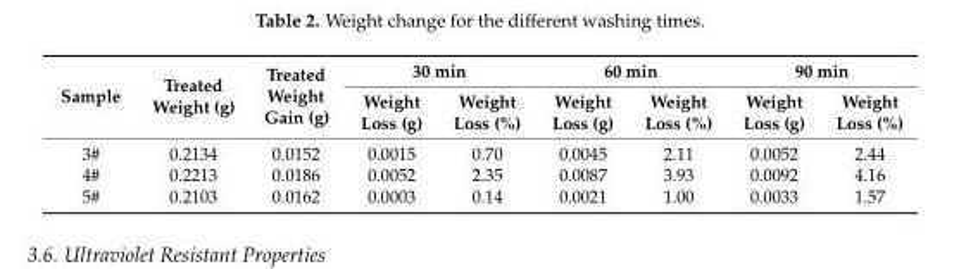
<table><thead><tr><td rowspan="2">Sample</td><td rowspan="2">Treated Weight (g)</td><td rowspan="2">Treated Weight Gain (g)</td><td colspan="2">30 min</td><td colspan="2">60 min</td><td colspan="2">90 min</td></tr><tr><td>Weight Loss (g)</td><td>Weight Loss (%)</td><td>Weight Loss (g)</td><td>Weight Loss (%)</td><td>Weight Loss (g)</td><td>Weight Loss (%)</td></tr></thead><tbody><tr><td>3#</td><td>0.2134</td><td>0.0152</td><td>0.0015</td><td>0.70</td><td>0.0045</td><td>2.11</td><td>0.0052</td><td>2.44</td></tr><tr><td>4#</td><td>0.2213</td><td>0.0186</td><td>0.0052</td><td>2.35</td><td>0.0087</td><td>3.93</td><td>0.0092</td><td>4.16</td></tr><tr><td>5#</td><td>0.2103</td><td>0.0162</td><td>0.0003</td><td>0.14</td><td>0.0021</td><td>1.00</td><td>0.0033</td><td>1.57</td></tr></tbody></table>